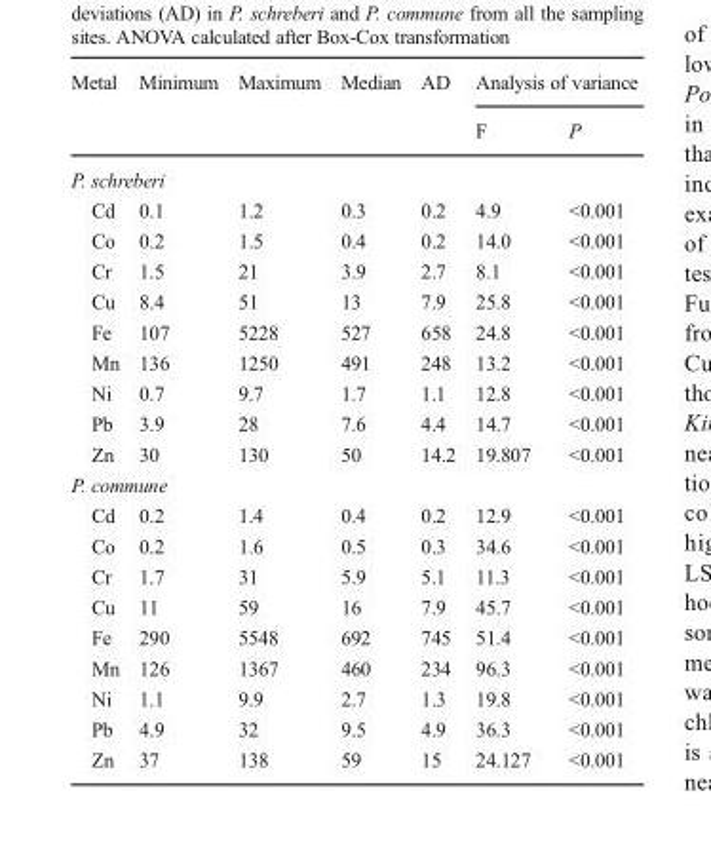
<table><thead><tr><td rowspan="2">Metal</td><td rowspan="2">Minimum</td><td rowspan="2">Maximum</td><td rowspan="2">Median</td><td rowspan="2">AD</td><td colspan="2">Analysis of variance</td></tr><tr><td>F</td><td>P</td></tr></thead><tbody><tr><td colspan="7">P. schreberi</td></tr><tr><td>Cd</td><td>0.1</td><td>1.2</td><td>0.3</td><td>0.2</td><td>4.9</td><td>&lt;0.001</td></tr><tr><td>Co</td><td>0.2</td><td>1.5</td><td>0.4</td><td>0.2</td><td>14.0</td><td>&lt;0.001</td></tr><tr><td>Cr</td><td>1.5</td><td>21</td><td>3.9</td><td>2.7</td><td>8.1</td><td>&lt;0.001</td></tr><tr><td>Cu</td><td>8.4</td><td>51</td><td>13</td><td>7.9</td><td>25.8</td><td>&lt;0.001</td></tr><tr><td>Fe</td><td>107</td><td>5228</td><td>527</td><td>658</td><td>24.8</td><td>&lt;0.001</td></tr><tr><td>Mn</td><td>136</td><td>1250</td><td>491</td><td>248</td><td>13.2</td><td>&lt;0.001</td></tr><tr><td>Ni</td><td>0.7</td><td>9.7</td><td>1.7</td><td>1.1</td><td>12.8</td><td>&lt;0.001</td></tr><tr><td>Pb</td><td>3.9</td><td>28</td><td>7.6</td><td>4.4</td><td>14.7</td><td>&lt;0.001</td></tr><tr><td>Zn</td><td>30</td><td>130</td><td>50</td><td>14.2</td><td>19.807</td><td>&lt;0.001</td></tr><tr><td colspan="7">P. commune</td></tr><tr><td>Cd</td><td>0.2</td><td>1.4</td><td>0.4</td><td>0.2</td><td>12.9</td><td>&lt;0.001</td></tr><tr><td>Co</td><td>0.2</td><td>1.6</td><td>0.5</td><td>0.3</td><td>34.6</td><td>&lt;0.001</td></tr><tr><td>Cr</td><td>1.7</td><td>31</td><td>5.9</td><td>5.1</td><td>11.3</td><td>&lt;0.001</td></tr><tr><td>Cu</td><td>11</td><td>59</td><td>16</td><td>7.9</td><td>45.7</td><td>&lt;0.001</td></tr><tr><td>Fe</td><td>290</td><td>5548</td><td>692</td><td>745</td><td>51.4</td><td>&lt;0.001</td></tr><tr><td>Mn</td><td>126</td><td>1367</td><td>460</td><td>234</td><td>96.3</td><td>&lt;0.001</td></tr><tr><td>Ni</td><td>1.1</td><td>9.9</td><td>2.7</td><td>1.3</td><td>19.8</td><td>&lt;0.001</td></tr><tr><td>Pb</td><td>4.9</td><td>32</td><td>9.5</td><td>4.9</td><td>36.3</td><td>&lt;0.001</td></tr><tr><td>Zn</td><td>37</td><td>138</td><td>59</td><td>15</td><td>24.127</td><td>&lt;0.001</td></tr></tbody></table>